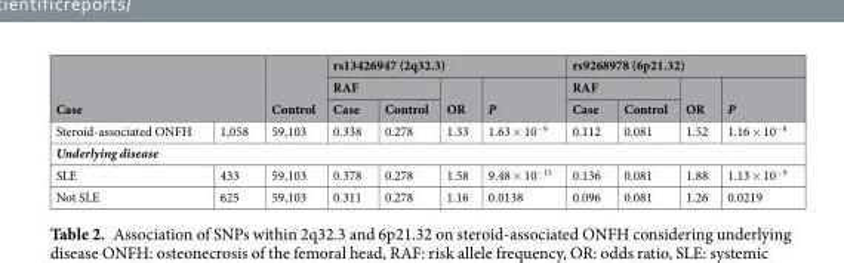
<table><thead><tr><td rowspan="3" colspan="2">Case</td><td rowspan="4">Control 59,103</td><td colspan="4">rs13426947 (2q32.3)</td><td colspan="4">rs9268978 (6p21.32)</td></tr><tr><td colspan="2">RAF</td><td rowspan="3">OR 1.33</td><td rowspan="3">P 1.63 × 10<sup>−9</sup></td><td colspan="2">RAF</td><td rowspan="3">OR 1.52</td><td rowspan="3">P 1.16 × 10<sup>−8</sup></td></tr><tr><td rowspan="2">Case 0.338</td><td rowspan="2">Control 0.278</td><td rowspan="2">Case 0.112</td><td rowspan="2">Control 0.081</td></tr><tr><td>Steroid-associated ONFH</td><td>1,058</td></tr></thead><tbody><tr><td colspan="11">Underlying disease</td></tr><tr><td>SLE</td><td>433</td><td>59,103</td><td>0.378</td><td>0.278</td><td>1.58</td><td>9.48 × 10<sup>−11</sup></td><td>0.136</td><td>0.081</td><td>1.88</td><td>1.13 × 10<sup>−9</sup></td></tr><tr><td>Not SLE</td><td>625</td><td>59,103</td><td>0.311</td><td>0.278</td><td>1.16</td><td>0.0138</td><td>0.096</td><td>0.081</td><td>1.26</td><td>0.0219</td></tr></tbody></table>